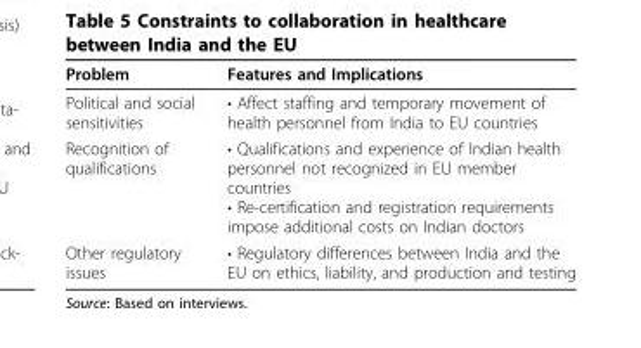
<table><thead><tr><td>Problem</td><td>Features and Implications</td></tr></thead><tbody><tr><td>Political and social sensitivities</td><td>• Affect staffing and temporary movement of health personnel from India to EU countries</td></tr><tr><td>Recognition of qualifications</td><td>• Qualifications and experience of Indian health personnel not recognized in EU member countries • Re-certification and registration requirements impose additional costs on Indian doctors</td></tr><tr><td>Other regulatory issues</td><td>• Regulatory differences between India and the EU on ethics, liability, and production and testing</td></tr></tbody></table>